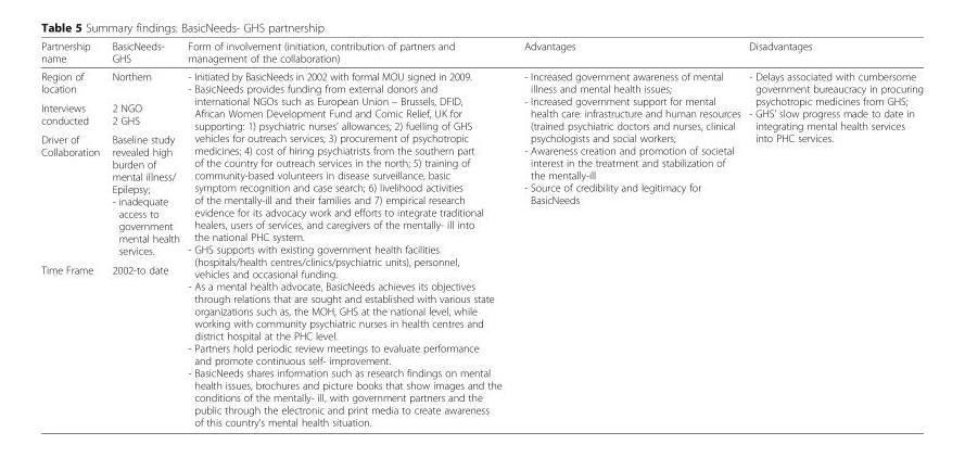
<table><thead><tr><td>Partnership name</td><td>BasicNeeds- GHS</td><td>Form of involvement (initiation, contribution of partners and management of the collaboration)</td><td>Advantages</td><td>Disadvantages</td></tr></thead><tbody><tr><td>Region of location</td><td>Northern</td><td rowspan="4">- Initiated by BasicNeeds in 2002 with formal MOU signed in 2009. - BasicNeeds provides funding from external donors and international NGOs such as European Union – Brussels, DFID, African Women Development Fund and Comic Relief, UK for supporting: 1) psychiatric nurses’ allowances; 2) fuelling of GHS vehicles for outreach services; 3) procurement of psychotropic medicines; 4) cost of hiring psychiatrists from the southern part of the country for outreach services in the north; 5) training of community-based volunteers in disease surveillance, basic symptom recognition and case search; 6) livelihood activities of the mentally-ill and their families and 7) empirical research evidence for its advocacy work and efforts to integrate traditional healers, users of services, and caregivers of the mentally- ill into the national PHC system. - GHS supports with existing government health facilities (hospitals/health centres/clinics/psychiatric units), personnel, vehicles and occasional funding. - As a mental health advocate, BasicNeeds achieves its objectives through relations that are sought and established with various state organizations such as, the MOH, GHS at the national level, while working with community psychiatric nurses in health centres and district hospital at the PHC level. - Partners hold periodic review meetings to evaluate performance and promote continuous self- improvement. - BasicNeeds shares information such as research findings on mental health issues, brochures and picture books that show images and the conditions of the mentally- ill, with government partners and the public through the electronic and print media to create awareness of this country’s mental health situation.</td><td rowspan="4">- Increased government awareness of mental illness and mental health issues; - Increased government support for mental health care: infrastructure and human resources (trained psychiatric doctors and nurses, clinical psychologists and social workers; - Awareness creation and promotion of societal interest in the treatment and stabilization of the mentally-ill - Source of credibility and legitimacy for BasicNeeds</td><td rowspan="4">- Delays associated with cumbersome government bureaucracy in procuring psychotropic medicines from GHS; - GHS’ slow progress made to date in integrating mental health services into PHC services.</td></tr><tr><td>Interviews conducted</td><td>2 NGO 2 GHS</td></tr><tr><td>Driver of Collaboration</td><td>Baseline study revealed high burden of mental illness/ Epilepsy; - inadequate access to government mental health services.</td></tr><tr><td>Time Frame</td><td>2002-to date</td></tr></tbody></table>